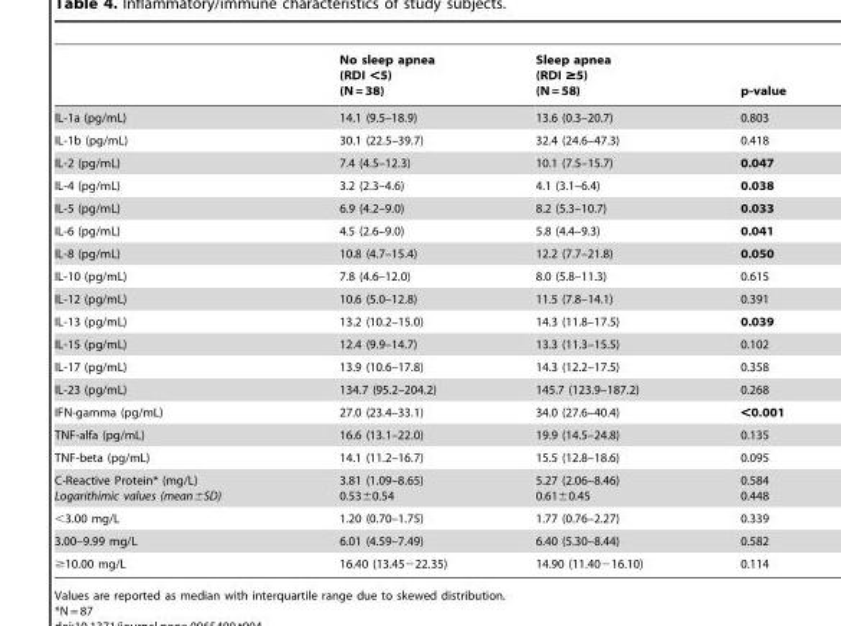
<table><thead><tr><td></td><td>No sleep apnea (RDI &lt;5) (N = 38)</td><td>Sleep apnea (RDI ≥5) (N = 58)</td><td>p-value</td></tr></thead><tbody><tr><td>IL-1a (pg/mL)</td><td>14.1 (9.5–18.9)</td><td>13.6 (0.3–20.7)</td><td>0.803</td></tr><tr><td>IL-1b (pg/mL)</td><td>30.1 (22.5–39.7)</td><td>32.4 (24.6–47.3)</td><td>0.418</td></tr><tr><td>IL-2 (pg/mL)</td><td>7.4 (4.5–12.3)</td><td>10.1 (7.5–15.7)</td><td>0.047</td></tr><tr><td>IL-4 (pg/mL)</td><td>3.2 (2.3–4.6)</td><td>4.1 (3.1–6.4)</td><td>0.038</td></tr><tr><td>IL-5 (pg/mL)</td><td>6.9 (4.2–9.0)</td><td>8.2 (5.3–10.7)</td><td>0.033</td></tr><tr><td>IL-6 (pg/mL)</td><td>4.5 (2.6–9.0)</td><td>5.8 (4.4–9.3)</td><td>0.041</td></tr><tr><td>IL-8 (pg/mL)</td><td>10.8 (4.7–15.4)</td><td>12.2 (7.7–21.8)</td><td>0.050</td></tr><tr><td>IL-10 (pg/mL)</td><td>7.8 (4.6–12.0)</td><td>8.0 (5.8–11.3)</td><td>0.615</td></tr><tr><td>IL-12 (pg/mL)</td><td>10.6 (5.0–12.8)</td><td>11.5 (7.8–14.1)</td><td>0.391</td></tr><tr><td>IL-13 (pg/mL)</td><td>13.2 (10.2–15.0)</td><td>14.3 (11.8–17.5)</td><td>0.039</td></tr><tr><td>IL-15 (pg/mL)</td><td>12.4 (9.9–14.7)</td><td>13.3 (11.3–15.5)</td><td>0.102</td></tr><tr><td>IL-17 (pg/mL)</td><td>13.9 (10.6–17.8)</td><td>14.3 (12.2–17.5)</td><td>0.358</td></tr><tr><td>IL-23 (pg/mL)</td><td>134.7 (95.2–204.2)</td><td>145.7 (123.9–187.2)</td><td>0.268</td></tr><tr><td>IFN-gamma (pg/mL)</td><td>27.0 (23.4–33.1)</td><td>34.0 (27.6–40.4)</td><td>&lt;0.001</td></tr><tr><td>TNF-alfa (pg/mL)</td><td>16.6 (13.1–22.0)</td><td>19.9 (14.5–24.8)</td><td>0.135</td></tr><tr><td>TNF-beta (pg/mL)</td><td>14.1 (11.2–16.7)</td><td>15.5 (12.8–18.6)</td><td>0.095</td></tr><tr><td>C-Reactive Protein* (mg/L) Logarithimic values (mean±SD)</td><td>3.81 (1.09–8.65) 0.53±0.54</td><td>5.27 (2.06–8.46) 0.61±0.45</td><td>0.584 0.448</td></tr><tr><td>&lt;3.00 mg/L</td><td>1.20 (0.70–1.75)</td><td>1.77 (0.76–2.27)</td><td>0.339</td></tr><tr><td>3.00–9.99 mg/L</td><td>6.01 (4.59–7.49)</td><td>6.40 (5.30–8.44)</td><td>0.582</td></tr><tr><td>≥10.00 mg/L</td><td>16.40 (13.45−22.35)</td><td>14.90 (11.40−16.10)</td><td>0.114</td></tr></tbody></table>